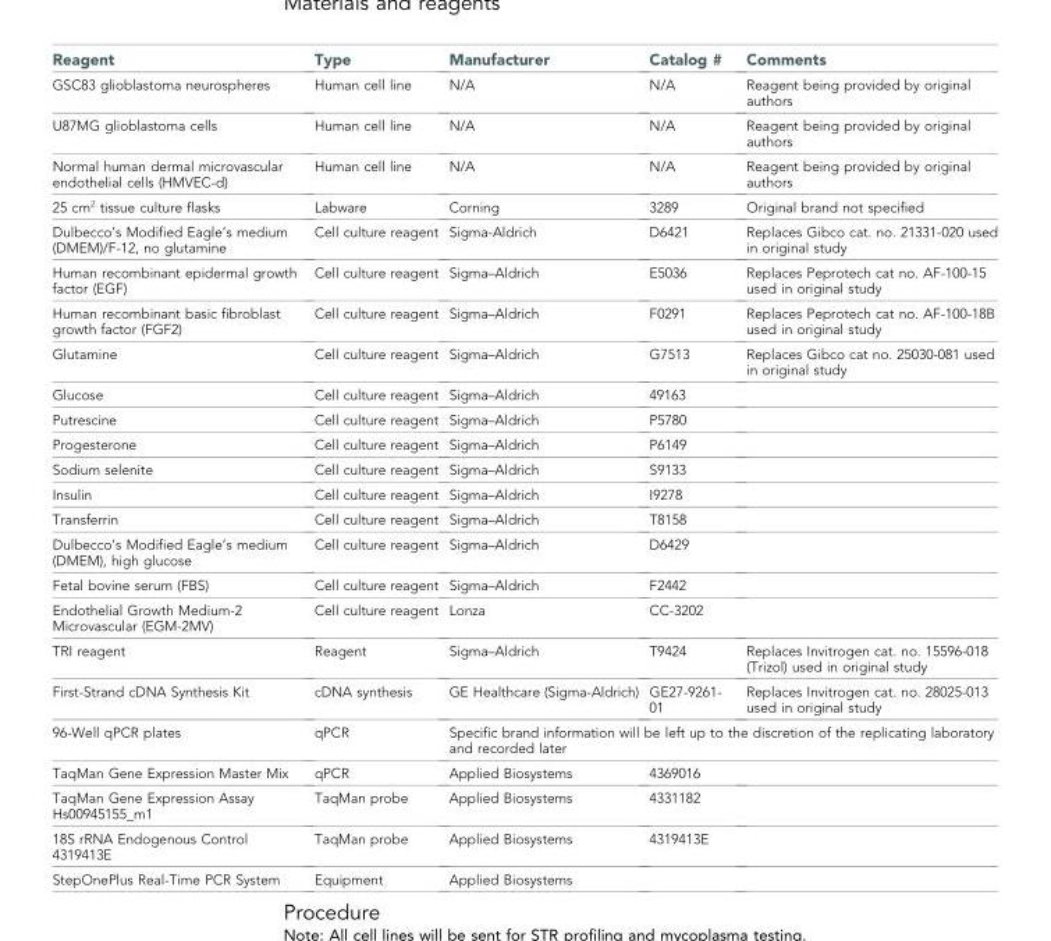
<table><thead><tr><td>Reagent</td><td>Type</td><td>Manufacturer</td><td>Catalog #</td><td>Comments</td></tr></thead><tbody><tr><td>GSC83 glioblastoma neurospheres</td><td>Human cell line</td><td>N/A</td><td>N/A</td><td>Reagent being provided by original authors</td></tr><tr><td>U87MG glioblastoma cells</td><td>Human cell line</td><td>N/A</td><td>N/A</td><td>Reagent being provided by original authors</td></tr><tr><td>Normal human dermal microvascular endothelial cells (HMVEC-d)</td><td>Human cell line</td><td>N/A</td><td>N/A</td><td>Reagent being provided by original authors</td></tr><tr><td>25 cm<sup>2</sup> tissue culture flasks</td><td>Labware</td><td>Corning</td><td>3289</td><td>Original brand not specified</td></tr><tr><td>Dulbecco’s Modified Eagle’s medium (DMEM)/F-12, no glutamine</td><td>Cell culture reagent</td><td>Sigma-Aldrich</td><td>D6421</td><td>Replaces Gibco cat. no. 21331-020 used in original study</td></tr><tr><td>Human recombinant epidermal growth factor (EGF)</td><td>Cell culture reagent</td><td>Sigma–Aldrich</td><td>E5036</td><td>Replaces Peprotech cat no. AF-100-15 used in original study</td></tr><tr><td>Human recombinant basic fibroblast growth factor (FGF2)</td><td>Cell culture reagent</td><td>Sigma–Aldrich</td><td>F0291</td><td>Replaces Peprotech cat no. AF-100-18B used in original study</td></tr><tr><td>Glutamine</td><td>Cell culture reagent</td><td>Sigma–Aldrich</td><td>G7513</td><td>Replaces Gibco cat no. 25030-081 used in original study</td></tr><tr><td>Glucose</td><td>Cell culture reagent</td><td>Sigma–Aldrich</td><td>49163</td><td></td></tr><tr><td>Putrescine</td><td>Cell culture reagent</td><td>Sigma–Aldrich</td><td>P5780</td><td></td></tr><tr><td>Progesterone</td><td>Cell culture reagent</td><td>Sigma–Aldrich</td><td>P6149</td><td></td></tr><tr><td>Sodium selenite</td><td>Cell culture reagent</td><td>Sigma–Aldrich</td><td>S9133</td><td></td></tr><tr><td>Insulin</td><td>Cell culture reagent</td><td>Sigma–Aldrich</td><td>I9278</td><td></td></tr><tr><td>Transferrin</td><td>Cell culture reagent</td><td>Sigma–Aldrich</td><td>T8158</td><td></td></tr><tr><td>Dulbecco’s Modified Eagle’s medium (DMEM), high glucose</td><td>Cell culture reagent</td><td>Sigma–Aldrich</td><td>D6429</td><td></td></tr><tr><td>Fetal bovine serum (FBS)</td><td>Cell culture reagent</td><td>Sigma–Aldrich</td><td>F2442</td><td></td></tr><tr><td>Endothelial Growth Medium-2 Microvascular (EGM-2MV)</td><td>Cell culture reagent</td><td>Lonza</td><td>CC-3202</td><td></td></tr><tr><td>TRI reagent</td><td>Reagent</td><td>Sigma–Aldrich</td><td>T9424</td><td>Replaces Invitrogen cat. no. 15596-018 (Trizol) used in original study</td></tr><tr><td>First-Strand cDNA Synthesis Kit</td><td>cDNA synthesis</td><td>GE Healthcare (Sigma-Aldrich)</td><td>GE27-9261- 01</td><td>Replaces Invitrogen cat. no. 28025-013 used in original study</td></tr><tr><td>96-Well qPCR plates</td><td>qPCR</td><td colspan="3">Specific brand information will be left up to the discretion of the replicating laboratory and recorded later</td></tr><tr><td>TaqMan Gene Expression Master Mix</td><td>qPCR</td><td>Applied Biosystems</td><td>4369016</td><td></td></tr><tr><td>TaqMan Gene Expression Assay Hs00945155_m1</td><td>TaqMan probe</td><td>Applied Biosystems</td><td>4331182</td><td></td></tr><tr><td>18S rRNA Endogenous Control 4319413E</td><td>TaqMan probe</td><td>Applied Biosystems</td><td>4319413E</td><td></td></tr><tr><td>StepOnePlus Real-Time PCR System</td><td>Equipment</td><td>Applied Biosystems</td><td></td><td></td></tr></tbody></table>